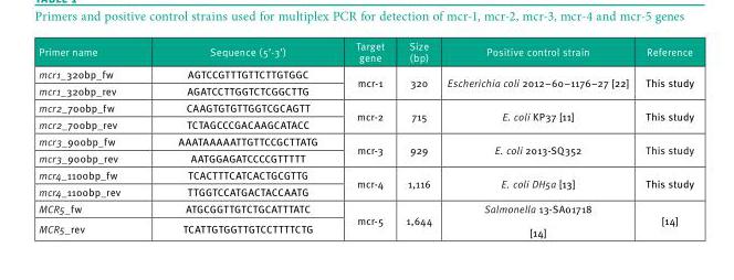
<table><thead><tr><td>Primer name</td><td>Sequence (5’-3’)</td><td>Target gene</td><td>Size (bp)</td><td>Positive control strain</td><td>Reference</td></tr></thead><tbody><tr><td>mcr1_320bp_fw</td><td>AGTCCGTTTGTTCTTGTGGC</td><td rowspan="2">mcr-1</td><td rowspan="2">320</td><td rowspan="2">Escherichia coli 2012–60–1176–27 [22]</td><td rowspan="2">This study</td></tr><tr><td>mcr1_320bp_rev</td><td>AGATCCTTGGTCTCGGCTTG</td></tr><tr><td>mcr2_700bp_fw</td><td>CAAGTGTGTTGGTCGCAGTT</td><td rowspan="2">mcr-2</td><td rowspan="2">715</td><td rowspan="2">E. coli KP37 [11]</td><td rowspan="2">This study</td></tr><tr><td>mcr2_700bp_rev</td><td>TCTAGCCCGACAAGCATACC</td></tr><tr><td>mcr3_900bp_fw</td><td>AAATAAAAATTGTTCCGCTTATG</td><td rowspan="2">mcr-3</td><td rowspan="2">929</td><td rowspan="2">E. coli 2013-SQ352</td><td rowspan="2">This study</td></tr><tr><td>mcr3_900bp_rev</td><td>AATGGAGATCCCCGTTTTT</td></tr><tr><td>mcr4_1100bp_fw</td><td>TCACTTTCATCACTGCGTTG</td><td rowspan="2">mcr-4</td><td rowspan="2">1,116</td><td rowspan="2">E. coli DH5α [13]</td><td rowspan="2">This study</td></tr><tr><td>mcr4_1100bp_rev</td><td>TTGGTCCATGACTACCAATG</td></tr><tr><td>MCR5_fw</td><td>ATGCGGTTGTCTGCATTTATC</td><td rowspan="2">mcr-5</td><td rowspan="2">1,644</td><td rowspan="2">Salmonella 13-SA01718 [14]</td><td rowspan="2">[14]</td></tr><tr><td>MCR5_rev</td><td>TCATTGTGGTTGTCCTTTTCTG</td></tr></tbody></table>